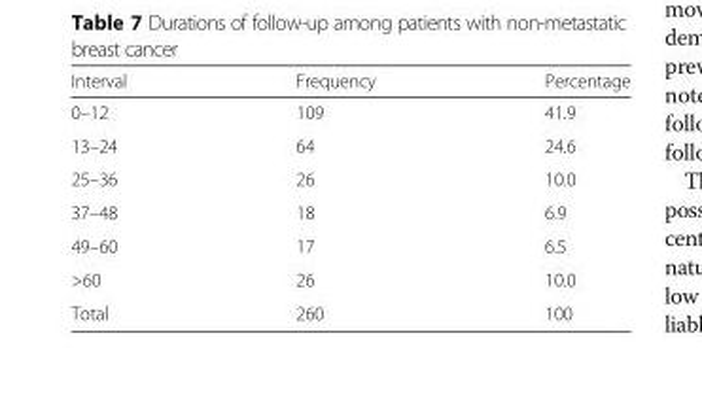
<table><thead><tr><td>Interval</td><td>Frequency</td><td>Percentage</td></tr></thead><tbody><tr><td>0–12</td><td>109</td><td>41.9</td></tr><tr><td>13–24</td><td>64</td><td>24.6</td></tr><tr><td>25–36</td><td>26</td><td>10.0</td></tr><tr><td>37–48</td><td>18</td><td>6.9</td></tr><tr><td>49–60</td><td>17</td><td>6.5</td></tr><tr><td>&gt;60</td><td>26</td><td>10.0</td></tr><tr><td>Total</td><td>260</td><td>100</td></tr></tbody></table>